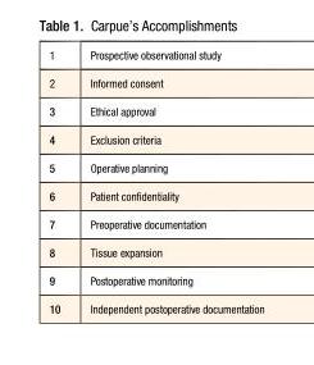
<table><tbody><tr><td>1</td><td>Prospective observational study</td></tr><tr><td>2</td><td>Informed consent</td></tr><tr><td>3</td><td>Ethical approval</td></tr><tr><td>4</td><td>Exclusion criteria</td></tr><tr><td>5</td><td>Operative planning</td></tr><tr><td>6</td><td>Patient confidentiality</td></tr><tr><td>7</td><td>Preoperative documentation</td></tr><tr><td>8</td><td>Tissue expansion</td></tr><tr><td>9</td><td>Postoperative monitoring</td></tr><tr><td>10</td><td>Independent postoperative documentation</td></tr></tbody></table>